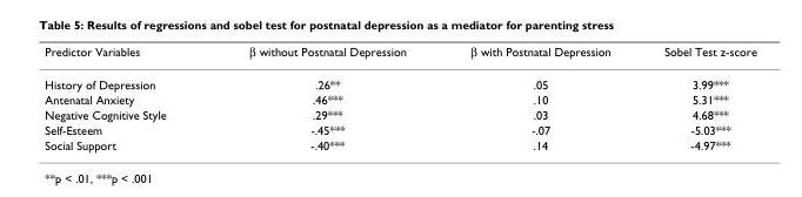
<table><thead><tr><td>Predictor Variables</td><td>β without Postnatal Depression</td><td>β with Postnatal Depression</td><td>Sobel Test z-score</td></tr></thead><tbody><tr><td>History of Depression</td><td>.26**</td><td>.05</td><td>3.99***</td></tr><tr><td>Antenatal Anxiety</td><td>.46***</td><td>.10</td><td>5.31***</td></tr><tr><td>Negative Cognitive Style</td><td>.29***</td><td>.03</td><td>4.68***</td></tr><tr><td>Self-Esteem</td><td>-.45***</td><td>-.07</td><td>-5.03***</td></tr><tr><td>Social Support</td><td>-.40***</td><td>.14</td><td>-4.97***</td></tr></tbody></table>